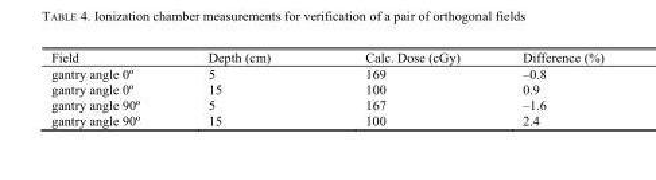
<table><thead><tr><td>Field</td><td>Depth (cm)</td><td>Calc. Dose (cGy)</td><td>Difference (%)</td></tr></thead><tbody><tr><td>gantry angle 0º</td><td>5</td><td>169</td><td>–0.8</td></tr><tr><td>gantry angle 0º</td><td>15</td><td>100</td><td>0.9</td></tr><tr><td>gantry angle 90º</td><td>5</td><td>167</td><td>–1.6</td></tr><tr><td>gantry angle 90º</td><td>15</td><td>100</td><td>2.4</td></tr></tbody></table>